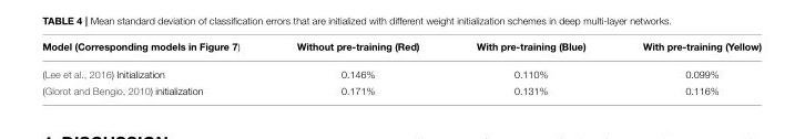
<table><thead><tr><td>Model (Corresponding models in Figure 7)</td><td>Without pre-training (Red)</td><td>With pre-training (Blue)</td><td>With pre-training (Yellow)</td></tr></thead><tbody><tr><td>(Lee et al., 2016) Initialization</td><td>0.146%</td><td>0.110%</td><td>0.099%</td></tr><tr><td>(Glorot and Bengio, 2010) initialization</td><td>0.171%</td><td>0.131%</td><td>0.116%</td></tr></tbody></table>